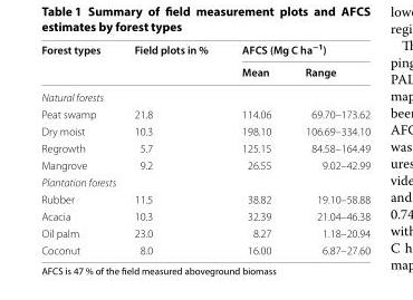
<table><thead><tr><td rowspan="2">Forest types</td><td rowspan="2">Field plots in %</td><td colspan="2">AFCS (Mg C ha<sup>−1</sup>)</td></tr><tr><td>Mean</td><td>Range</td></tr></thead><tbody><tr><td colspan="4">Natural forests</td></tr><tr><td>Peat swamp</td><td>21.8</td><td>114.06</td><td>69.70–173.62</td></tr><tr><td>Dry moist</td><td>10.3</td><td>198.10</td><td>106.69–334.10</td></tr><tr><td>Regrowth</td><td>5.7</td><td>125.15</td><td>84.58–164.49</td></tr><tr><td>Mangrove</td><td>9.2</td><td>26.55</td><td>9.02–42.99</td></tr><tr><td colspan="4">Plantation forests</td></tr><tr><td>Rubber</td><td>11.5</td><td>38.82</td><td>19.10–58.88</td></tr><tr><td>Acacia</td><td>10.3</td><td>32.39</td><td>21.04–46.38</td></tr><tr><td>Oil palm</td><td>23.0</td><td>8.27</td><td>1.18–20.94</td></tr><tr><td>Coconut</td><td>8.0</td><td>16.00</td><td>6.87–27.60</td></tr></tbody></table>